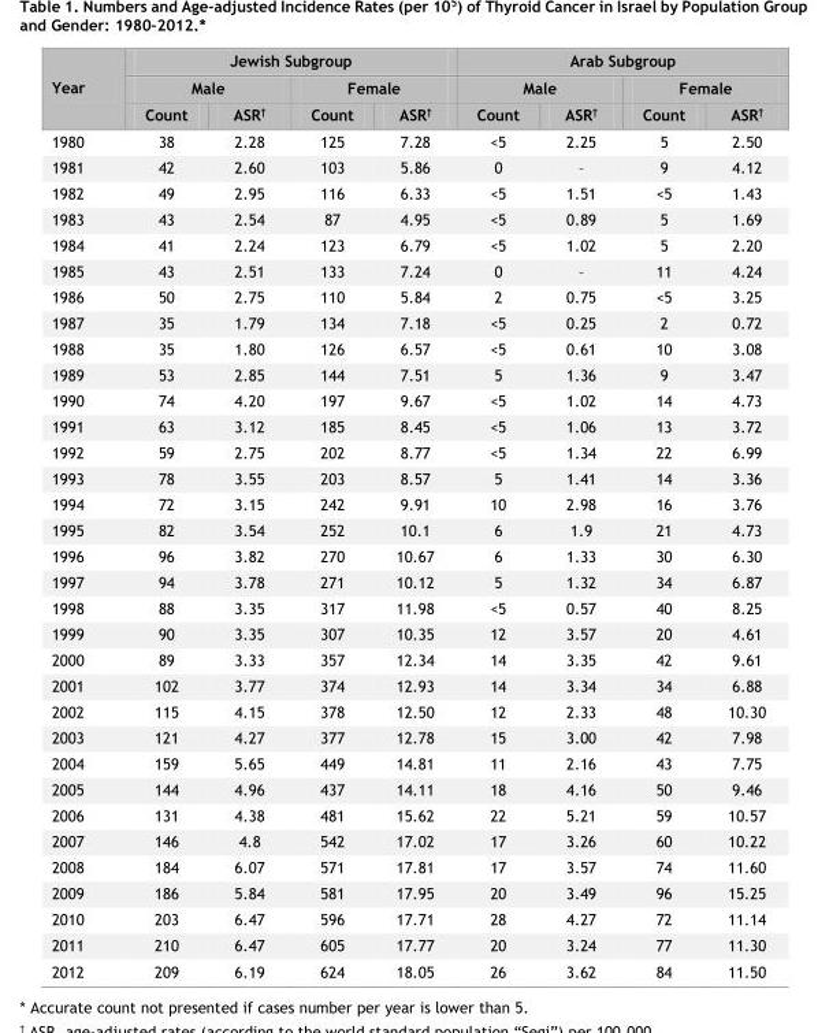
<table><thead><tr><td rowspan="3">Year</td><td colspan="4">Jewish Subgroup</td><td colspan="4">Arab Subgroup</td></tr><tr><td colspan="2">Male</td><td colspan="2">Female</td><td colspan="2">Male</td><td colspan="2">Female</td></tr><tr><td>Count</td><td>ASR<sup>†</sup></td><td>Count</td><td>ASR<sup>†</sup></td><td>Count</td><td>ASR<sup>†</sup></td><td>Count</td><td>ASR<sup>†</sup></td></tr></thead><tbody><tr><td>1980</td><td>38</td><td>2.28</td><td>125</td><td>7.28</td><td>&lt;5</td><td>2.25</td><td>5</td><td>2.50</td></tr><tr><td>1981</td><td>42</td><td>2.60</td><td>103</td><td>5.86</td><td>0</td><td>–</td><td>9</td><td>4.12</td></tr><tr><td>1982</td><td>49</td><td>2.95</td><td>116</td><td>6.33</td><td>&lt;5</td><td>1.51</td><td>&lt;5</td><td>1.43</td></tr><tr><td>1983</td><td>43</td><td>2.54</td><td>87</td><td>4.95</td><td>&lt;5</td><td>0.89</td><td>5</td><td>1.69</td></tr><tr><td>1984</td><td>41</td><td>2.24</td><td>123</td><td>6.79</td><td>&lt;5</td><td>1.02</td><td>5</td><td>2.20</td></tr><tr><td>1985</td><td>43</td><td>2.51</td><td>133</td><td>7.24</td><td>0</td><td>–</td><td>11</td><td>4.24</td></tr><tr><td>1986</td><td>50</td><td>2.75</td><td>110</td><td>5.84</td><td>2</td><td>0.75</td><td>&lt;5</td><td>3.25</td></tr><tr><td>1987</td><td>35</td><td>1.79</td><td>134</td><td>7.18</td><td>&lt;5</td><td>0.25</td><td>2</td><td>0.72</td></tr><tr><td>1988</td><td>35</td><td>1.80</td><td>126</td><td>6.57</td><td>&lt;5</td><td>0.61</td><td>10</td><td>3.08</td></tr><tr><td>1989</td><td>53</td><td>2.85</td><td>144</td><td>7.51</td><td>5</td><td>1.36</td><td>9</td><td>3.47</td></tr><tr><td>1990</td><td>74</td><td>4.20</td><td>197</td><td>9.67</td><td>&lt;5</td><td>1.02</td><td>14</td><td>4.73</td></tr><tr><td>1991</td><td>63</td><td>3.12</td><td>185</td><td>8.45</td><td>&lt;5</td><td>1.06</td><td>13</td><td>3.72</td></tr><tr><td>1992</td><td>59</td><td>2.75</td><td>202</td><td>8.77</td><td>&lt;5</td><td>1.34</td><td>22</td><td>6.99</td></tr><tr><td>1993</td><td>78</td><td>3.55</td><td>203</td><td>8.57</td><td>5</td><td>1.41</td><td>14</td><td>3.36</td></tr><tr><td>1994</td><td>72</td><td>3.15</td><td>242</td><td>9.91</td><td>10</td><td>2.98</td><td>16</td><td>3.76</td></tr><tr><td>1995</td><td>82</td><td>3.54</td><td>252</td><td>10.1</td><td>6</td><td>1.9</td><td>21</td><td>4.73</td></tr><tr><td>1996</td><td>96</td><td>3.82</td><td>270</td><td>10.67</td><td>6</td><td>1.33</td><td>30</td><td>6.30</td></tr><tr><td>1997</td><td>94</td><td>3.78</td><td>271</td><td>10.12</td><td>5</td><td>1.32</td><td>34</td><td>6.87</td></tr><tr><td>1998</td><td>88</td><td>3.35</td><td>317</td><td>11.98</td><td>&lt;5</td><td>0.57</td><td>40</td><td>8.25</td></tr><tr><td>1999</td><td>90</td><td>3.35</td><td>307</td><td>10.35</td><td>12</td><td>3.57</td><td>20</td><td>4.61</td></tr><tr><td>2000</td><td>89</td><td>3.33</td><td>357</td><td>12.34</td><td>14</td><td>3.35</td><td>42</td><td>9.61</td></tr><tr><td>2001</td><td>102</td><td>3.77</td><td>374</td><td>12.93</td><td>14</td><td>3.34</td><td>34</td><td>6.88</td></tr><tr><td>2002</td><td>115</td><td>4.15</td><td>378</td><td>12.50</td><td>12</td><td>2.33</td><td>48</td><td>10.30</td></tr><tr><td>2003</td><td>121</td><td>4.27</td><td>377</td><td>12.78</td><td>15</td><td>3.00</td><td>42</td><td>7.98</td></tr><tr><td>2004</td><td>159</td><td>5.65</td><td>449</td><td>14.81</td><td>11</td><td>2.16</td><td>43</td><td>7.75</td></tr><tr><td>2005</td><td>144</td><td>4.96</td><td>437</td><td>14.11</td><td>18</td><td>4.16</td><td>50</td><td>9.46</td></tr><tr><td>2006</td><td>131</td><td>4.38</td><td>481</td><td>15.62</td><td>22</td><td>5.21</td><td>59</td><td>10.57</td></tr><tr><td>2007</td><td>146</td><td>4.8</td><td>542</td><td>17.02</td><td>17</td><td>3.26</td><td>60</td><td>10.22</td></tr><tr><td>2008</td><td>184</td><td>6.07</td><td>571</td><td>17.81</td><td>17</td><td>3.57</td><td>74</td><td>11.60</td></tr><tr><td>2009</td><td>186</td><td>5.84</td><td>581</td><td>17.95</td><td>20</td><td>3.49</td><td>96</td><td>15.25</td></tr><tr><td>2010</td><td>203</td><td>6.47</td><td>596</td><td>17.71</td><td>28</td><td>4.27</td><td>72</td><td>11.14</td></tr><tr><td>2011</td><td>210</td><td>6.47</td><td>605</td><td>17.77</td><td>20</td><td>3.24</td><td>77</td><td>11.30</td></tr><tr><td>2012</td><td>209</td><td>6.19</td><td>624</td><td>18.05</td><td>26</td><td>3.62</td><td>84</td><td>11.50</td></tr></tbody></table>